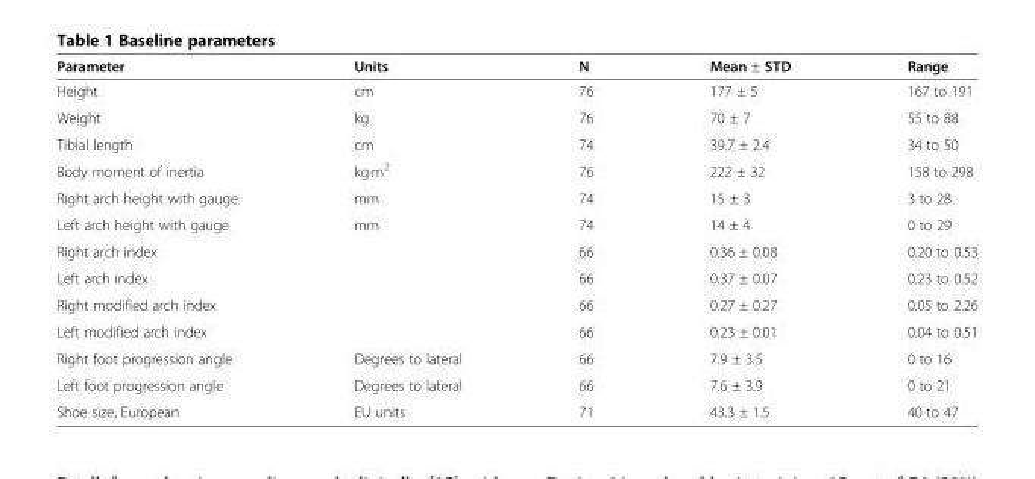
<table><thead><tr><td>Parameter</td><td>Units</td><td>N</td><td>Mean ± STD</td><td>Range</td></tr></thead><tbody><tr><td>Height</td><td>cm</td><td>76</td><td>177 ± 5</td><td>167 to 191</td></tr><tr><td>Weight</td><td>kg</td><td>76</td><td>70 ± 7</td><td>55 to 88</td></tr><tr><td>Tibial length</td><td>cm</td><td>74</td><td>39.7 ± 2.4</td><td>34 to 50</td></tr><tr><td>Body moment of inertia</td><td>kg·m<sup>2</sup></td><td>76</td><td>222 ± 32</td><td>158 to 298</td></tr><tr><td>Right arch height with gauge</td><td>mm</td><td>74</td><td>15 ± 3</td><td>3 to 28</td></tr><tr><td>Left arch height with gauge</td><td>mm</td><td>74</td><td>14 ± 4</td><td>0 to 29</td></tr><tr><td>Right arch index</td><td></td><td>66</td><td>0.36 ± 0.08</td><td>0.20 to 0.53</td></tr><tr><td>Left arch index</td><td></td><td>66</td><td>0.37 ± 0.07</td><td>0.23 to 0.52</td></tr><tr><td>Right modified arch index</td><td></td><td>66</td><td>0.27 ± 0.27</td><td>0.05 to 2.26</td></tr><tr><td>Left modified arch index</td><td></td><td>66</td><td>0.23 ± 0.01</td><td>0.04 to 0.51</td></tr><tr><td>Right foot progression angle</td><td>Degrees to lateral</td><td>66</td><td>7.9 ± 3.5</td><td>0 to 16</td></tr><tr><td>Left foot progression angle</td><td>Degrees to lateral</td><td>66</td><td>7.6 ± 3.9</td><td>0 to 21</td></tr><tr><td>Shoe size, European</td><td>EU units</td><td>71</td><td>43.3 ± 1.5</td><td>40 to 47</td></tr></tbody></table>